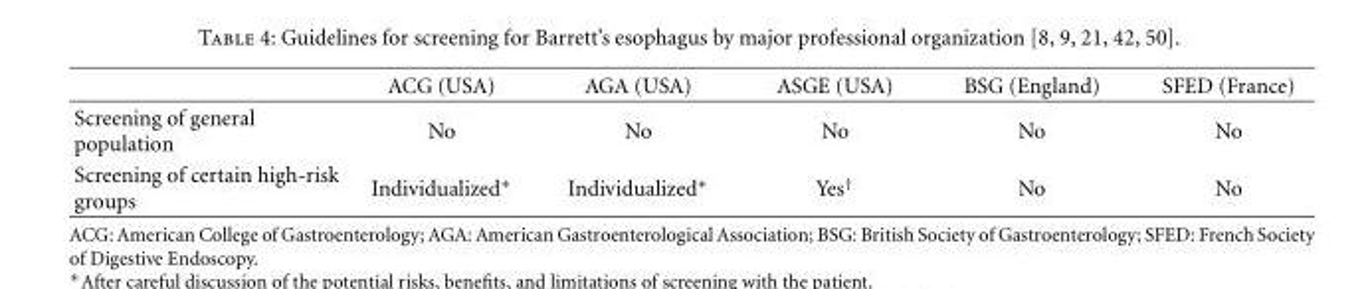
<table><thead><tr><td></td><td>ACG (USA)</td><td>AGA (USA)</td><td>ASGE (USA)</td><td>BSG (England)</td><td>SFED (France)</td></tr></thead><tbody><tr><td>Screening of general population</td><td>No</td><td>No</td><td>No</td><td>No</td><td>No</td></tr><tr><td>Screening of certain high-risk groups</td><td>Individualized∗</td><td>Individualized∗</td><td>Yes<sup>†</sup></td><td>No</td><td>No</td></tr></tbody></table>